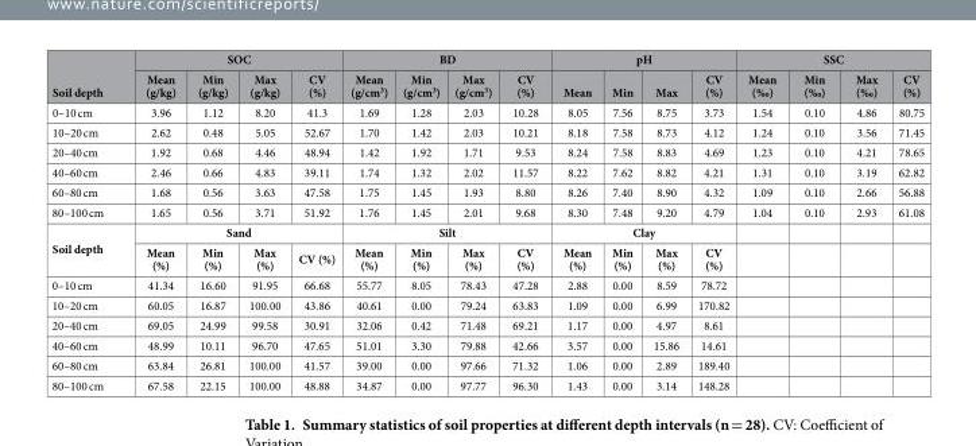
<table><thead><tr><td rowspan="2">Soil depth</td><td colspan="4">SOC</td><td colspan="4">BD</td><td colspan="4">pH</td><td colspan="4">SSC</td></tr><tr><td>Mean (g/kg)</td><td>Min (g/kg)</td><td>Max (g/kg)</td><td>CV (%)</td><td>Mean (g/cm<sup>3</sup>)</td><td>Min (g/cm<sup>3</sup>)</td><td>Max (g/cm<sup>3</sup>)</td><td>CV (%)</td><td>Mean</td><td>Min</td><td>Max</td><td>CV (%)</td><td>Mean (‰)</td><td>Min (‰)</td><td>Max (‰)</td><td>CV (%)</td></tr></thead><tbody><tr><td>0–10 cm</td><td>3.96</td><td>1.12</td><td>8.20</td><td>41.3</td><td>1.69</td><td>1.28</td><td>2.03</td><td>10.28</td><td>8.05</td><td>7.56</td><td>8.75</td><td>3.73</td><td>1.54</td><td>0.10</td><td>4.86</td><td>80.75</td></tr><tr><td>10–20 cm</td><td>2.62</td><td>0.48</td><td>5.05</td><td>52.67</td><td>1.70</td><td>1.42</td><td>2.03</td><td>10.21</td><td>8.18</td><td>7.58</td><td>8.73</td><td>4.12</td><td>1.24</td><td>0.10</td><td>3.56</td><td>71.45</td></tr><tr><td>20–40 cm</td><td>1.92</td><td>0.68</td><td>4.46</td><td>48.94</td><td>1.42</td><td>1.92</td><td>1.71</td><td>9.53</td><td>8.24</td><td>7.58</td><td>8.83</td><td>4.69</td><td>1.23</td><td>0.10</td><td>4.21</td><td>78.65</td></tr><tr><td>40–60 cm</td><td>2.46</td><td>0.66</td><td>4.83</td><td>39.11</td><td>1.74</td><td>1.32</td><td>2.02</td><td>11.57</td><td>8.22</td><td>7.62</td><td>8.82</td><td>4.21</td><td>1.31</td><td>0.10</td><td>3.19</td><td>62.82</td></tr><tr><td>60–80 cm</td><td>1.68</td><td>0.56</td><td>3.63</td><td>47.58</td><td>1.75</td><td>1.45</td><td>1.93</td><td>8.80</td><td>8.26</td><td>7.40</td><td>8.90</td><td>4.32</td><td>1.09</td><td>0.10</td><td>2.66</td><td>56.88</td></tr><tr><td>80–100 cm</td><td>1.65</td><td>0.56</td><td>3.71</td><td>51.92</td><td>1.76</td><td>1.45</td><td>2.01</td><td>9.68</td><td>8.30</td><td>7.48</td><td>9.20</td><td>4.79</td><td>1.04</td><td>0.10</td><td>2.93</td><td>61.08</td></tr><tr><td rowspan="2">Soil depth</td><td colspan="4">Sand</td><td colspan="4">Silt</td><td colspan="4">Clay</td><td></td><td></td><td></td><td></td></tr><tr><td>Mean (%)</td><td>Min (%)</td><td>Max (%)</td><td>CV (%)</td><td>Mean (%)</td><td>Min (%)</td><td>Max (%)</td><td>CV (%)</td><td>Mean (%)</td><td>Min (%)</td><td>Max (%)</td><td>CV (%)</td><td></td><td></td><td></td><td></td></tr><tr><td>0–10 cm</td><td>41.34</td><td>16.60</td><td>91.95</td><td>66.68</td><td>55.77</td><td>8.05</td><td>78.43</td><td>47.28</td><td>2.88</td><td>0.00</td><td>8.59</td><td>78.72</td><td></td><td></td><td></td><td></td></tr><tr><td>10–20 cm</td><td>60.05</td><td>16.87</td><td>100.00</td><td>43.86</td><td>40.61</td><td>0.00</td><td>79.24</td><td>63.83</td><td>1.09</td><td>0.00</td><td>6.99</td><td>170.82</td><td></td><td></td><td></td><td></td></tr><tr><td>20–40 cm</td><td>69.05</td><td>24.99</td><td>99.58</td><td>30.91</td><td>32.06</td><td>0.42</td><td>71.48</td><td>69.21</td><td>1.17</td><td>0.00</td><td>4.97</td><td>8.61</td><td></td><td></td><td></td><td></td></tr><tr><td>40–60 cm</td><td>48.99</td><td>10.11</td><td>96.70</td><td>47.65</td><td>51.01</td><td>3.30</td><td>79.88</td><td>42.66</td><td>3.57</td><td>0.00</td><td>15.86</td><td>14.61</td><td></td><td></td><td></td><td></td></tr><tr><td>60–80 cm</td><td>63.84</td><td>26.81</td><td>100.00</td><td>41.57</td><td>39.00</td><td>0.00</td><td>97.66</td><td>71.32</td><td>1.06</td><td>0.00</td><td>2.89</td><td>189.40</td><td></td><td></td><td></td><td></td></tr><tr><td>80–100 cm</td><td>67.58</td><td>22.15</td><td>100.00</td><td>48.88</td><td>34.87</td><td>0.00</td><td>97.77</td><td>96.30</td><td>1.43</td><td>0.00</td><td>3.14</td><td>148.28</td><td></td><td></td><td></td><td></td></tr></tbody></table>